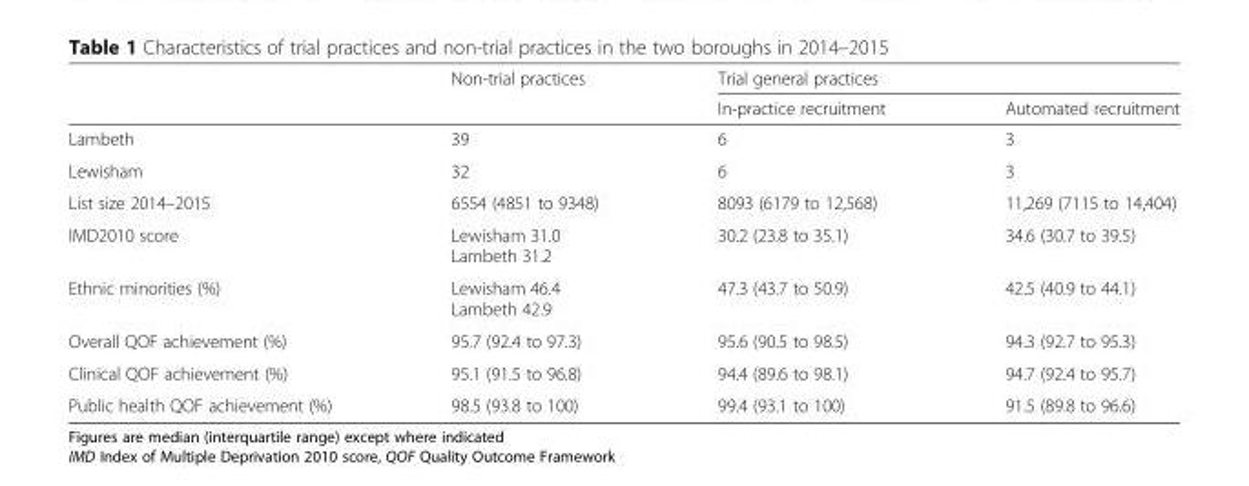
<table><thead><tr><td rowspan="2"></td><td rowspan="2">Non-trial practices</td><td colspan="2">Trial general practices</td></tr><tr><td>In-practice recruitment</td><td>Automated recruitment</td></tr></thead><tbody><tr><td>Lambeth</td><td>39</td><td>6</td><td>3</td></tr><tr><td>Lewisham</td><td>32</td><td>6</td><td>3</td></tr><tr><td>List size 2014–2015</td><td>6554 (4851 to 9348)</td><td>8093 (6179 to 12,568)</td><td>11,269 (7115 to 14,404)</td></tr><tr><td>IMD2010 score</td><td>Lewisham 31.0 Lambeth 31.2</td><td>30.2 (23.8 to 35.1)</td><td>34.6 (30.7 to 39.5)</td></tr><tr><td>Ethnic minorities (%)</td><td>Lewisham 46.4 Lambeth 42.9</td><td>47.3 (43.7 to 50.9)</td><td>42.5 (40.9 to 44.1)</td></tr><tr><td>Overall QOF achievement (%)</td><td>95.7 (92.4 to 97.3)</td><td>95.6 (90.5 to 98.5)</td><td>94.3 (92.7 to 95.3)</td></tr><tr><td>Clinical QOF achievement (%)</td><td>95.1 (91.5 to 96.8)</td><td>94.4 (89.6 to 98.1)</td><td>94.7 (92.4 to 95.7)</td></tr><tr><td>Public health QOF achievement (%)</td><td>98.5 (93.8 to 100)</td><td>99.4 (93.1 to 100)</td><td>91.5 (89.8 to 96.6)</td></tr></tbody></table>